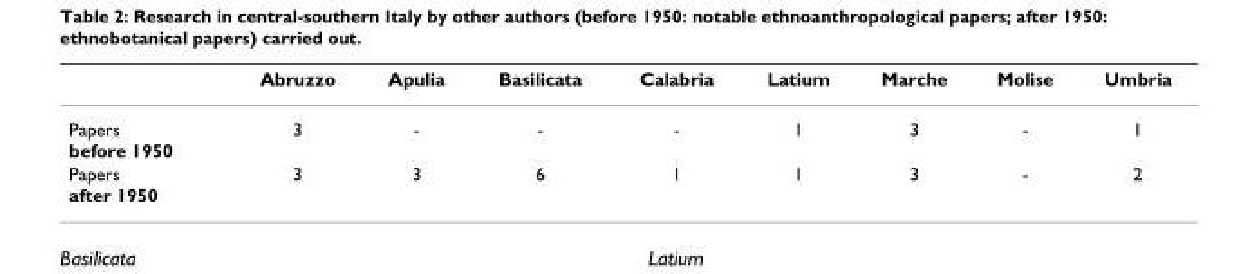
<table><thead><tr><td></td><td>Abruzzo</td><td>Apulia</td><td>Basilicata</td><td>Calabria</td><td>Latium</td><td>Marche</td><td>Molise</td><td>Umbria</td></tr></thead><tbody><tr><td>Papers before 1950</td><td>3</td><td>-</td><td>-</td><td>-</td><td>1</td><td>3</td><td>-</td><td>1</td></tr><tr><td>Papers after 1950</td><td>3</td><td>3</td><td>6</td><td>1</td><td>1</td><td>3</td><td>-</td><td>2</td></tr></tbody></table>